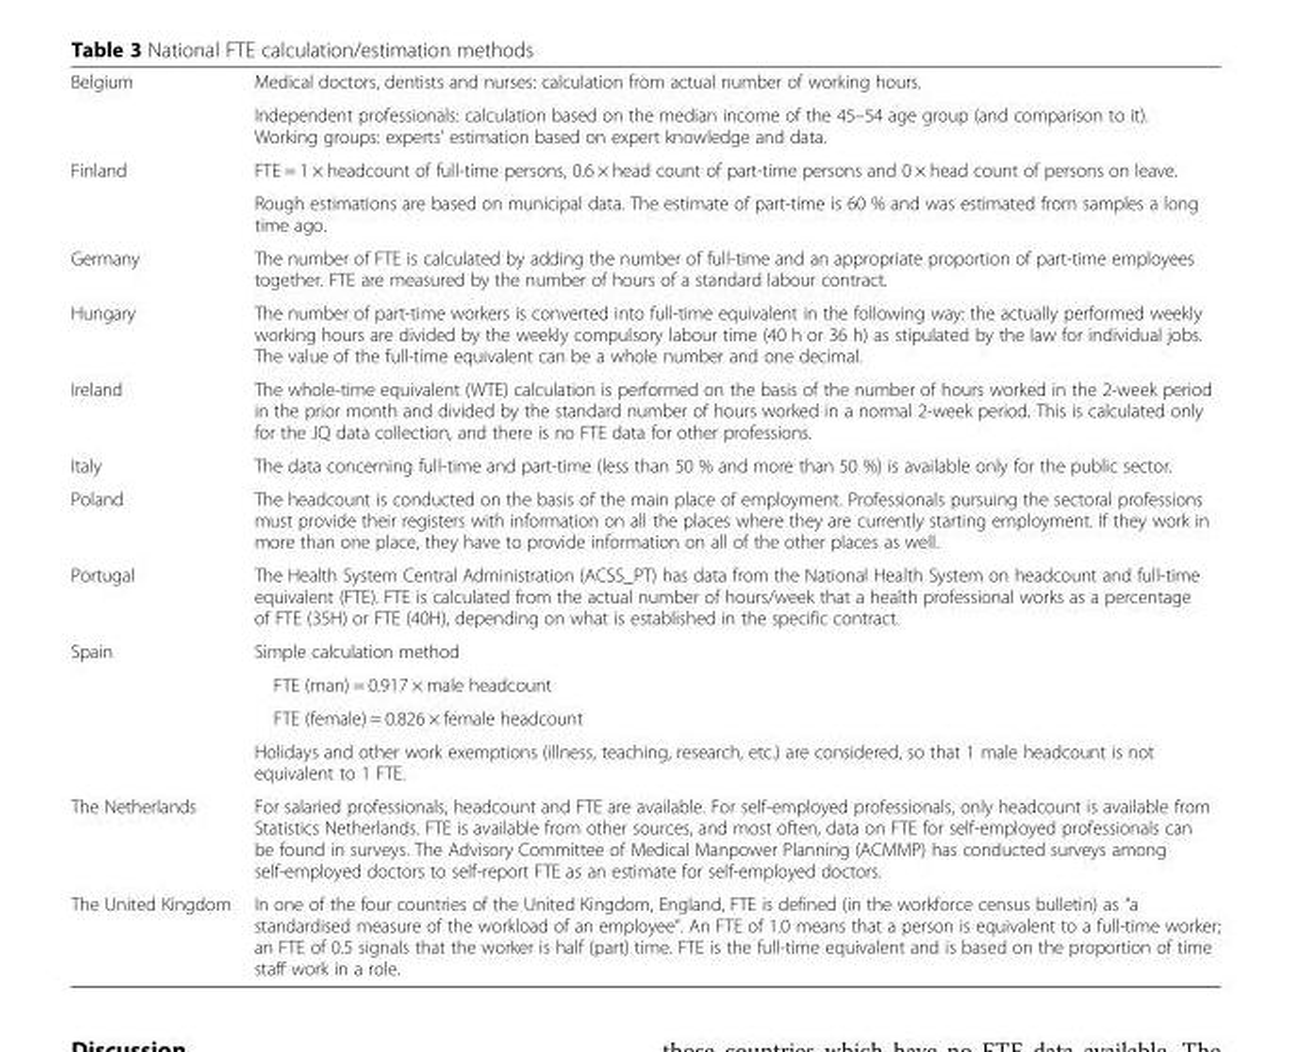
<table><tbody><tr><td rowspan="2">Belgium</td><td>Medical doctors, dentists and nurses: calculation from actual number of working hours.</td></tr><tr><td>Independent professionals: calculation based on the median income of the 45–54 age group (and comparison to it). Working groups: experts’ estimation based on expert knowledge and data.</td></tr><tr><td rowspan="2">Finland</td><td>FTE = 1 × headcount of full-time persons, 0.6 × head count of part-time persons and 0 × head count of persons on leave.</td></tr><tr><td>Rough estimations are based on municipal data. The estimate of part-time is 60 % and was estimated from samples a long time ago.</td></tr><tr><td>Germany</td><td>The number of FTE is calculated by adding the number of full-time and an appropriate proportion of part-time employees together. FTE are measured by the number of hours of a standard labour contract.</td></tr><tr><td>Hungary</td><td>The number of part-time workers is converted into full-time equivalent in the following way: the actually performed weekly working hours are divided by the weekly compulsory labour time (40 h or 36 h) as stipulated by the law for individual jobs. The value of the full-time equivalent can be a whole number and one decimal.</td></tr><tr><td>Ireland</td><td>The whole-time equivalent (WTE) calculation is performed on the basis of the number of hours worked in the 2-week period in the prior month and divided by the standard number of hours worked in a normal 2-week period. This is calculated only for the JQ data collection, and there is no FTE data for other professions.</td></tr><tr><td>Italy</td><td>The data concerning full-time and part-time (less than 50 % and more than 50 %) is available only for the public sector.</td></tr><tr><td>Poland</td><td>The headcount is conducted on the basis of the main place of employment. Professionals pursuing the sectoral professions must provide their registers with information on all the places where they are currently starting employment. If they work in more than one place, they have to provide information on all of the other places as well.</td></tr><tr><td>Portugal</td><td>The Health System Central Administration (ACSS_PT) has data from the National Health System on headcount and full-time equivalent (FTE). FTE is calculated from the actual number of hours/week that a health professional works as a percentage of FTE (35H) or FTE (40H), depending on what is established in the specific contract.</td></tr><tr><td rowspan="4">Spain</td><td>Simple calculation method</td></tr><tr><td>FTE (man) = 0.917 × male headcount</td></tr><tr><td>FTE (female) = 0.826 × female headcount</td></tr><tr><td>Holidays and other work exemptions (illness, teaching, research, etc.) are considered, so that 1 male headcount is not equivalent to 1 FTE.</td></tr><tr><td>The Netherlands</td><td>For salaried professionals, headcount and FTE are available. For self-employed professionals, only headcount is available from Statistics Netherlands. FTE is available from other sources, and most often, data on FTE for self-employed professionals can be found in surveys. The Advisory Committee of Medical Manpower Planning (ACMMP) has conducted surveys among self-employed doctors to self-report FTE as an estimate for self-employed doctors.</td></tr><tr><td>The United Kingdom</td><td>In one of the four countries of the United Kingdom, England, FTE is defined (in the workforce census bulletin) as “a standardised measure of the workload of an employee”. An FTE of 1.0 means that a person is equivalent to a full-time worker; an FTE of 0.5 signals that the worker is half (part) time. FTE is the full-time equivalent and is based on the proportion of time staff work in a role.</td></tr></tbody></table>